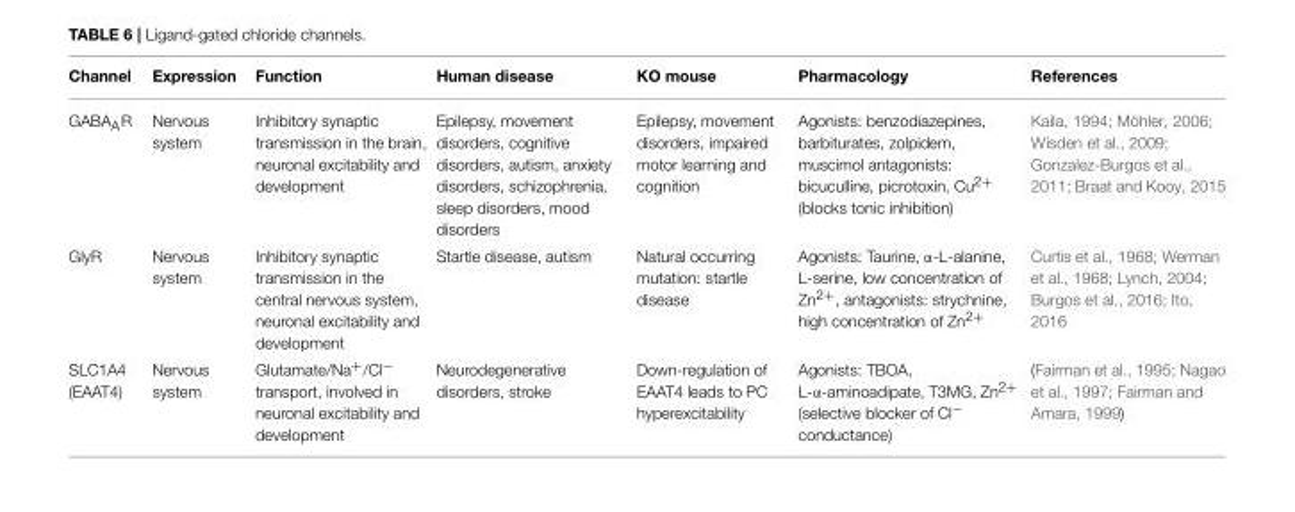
<table><thead><tr><td>Channel</td><td>Expression</td><td>Function</td><td>Human disease</td><td>KO mouse</td><td>Pharmacology</td><td>References</td></tr></thead><tbody><tr><td>GABA<sub>A</sub>R</td><td>Nervous system</td><td>Inhibitory synaptic transmission in the brain, neuronal excitability and development</td><td>Epilepsy, movement disorders, cognitive disorders, autism, anxiety disorders, schizophrenia, sleep disorders, mood disorders</td><td>Epilepsy, movement disorders, impaired motor learning and cognition</td><td>Agonists: benzodiazepines, barbiturates, zolpidem, muscimol antagonists: bicuculline, picrotoxin, Cu<sup>2+</sup> (blocks tonic inhibition)</td><td>Kaila, 1994; Möhler, 2006; Wisden et al., 2009; Gonzalez-Burgos et al., 2011; Braat and Kooy, 2015</td></tr><tr><td>GlyR</td><td>Nervous system</td><td>Inhibitory synaptic transmission in the central nervous system, neuronal excitability and development</td><td>Startle disease, autism</td><td>Natural occurring mutation: startle disease</td><td>Agonists: Taurine, α-L-alanine, L-serine, low concentration of Zn<sup>2+</sup>, antagonists: strychnine, high concentration of Zn<sup>2+</sup></td><td>Curtis et al., 1968; Werman et al., 1968; Lynch, 2004; Burgos et al., 2016; Ito, 2016</td></tr><tr><td>SLC1A4 (EAAT4)</td><td>Nervous system</td><td>Glutamate/Na<sup>+</sup>/Cl<sup>−</sup> transport, involved in neuronal excitability and development</td><td>Neurodegenerative disorders, stroke</td><td>Down-regulation of EAAT4 leads to PC hyperexcitability</td><td>Agonists: TBOA, L-α-aminoadipate, T3MG, Zn<sup>2+</sup> (selective blocker of Cl<sup>−</sup> conductance)</td><td>(Fairman et al., 1995; Nagao et al., 1997; Fairman and Amara, 1999)</td></tr></tbody></table>